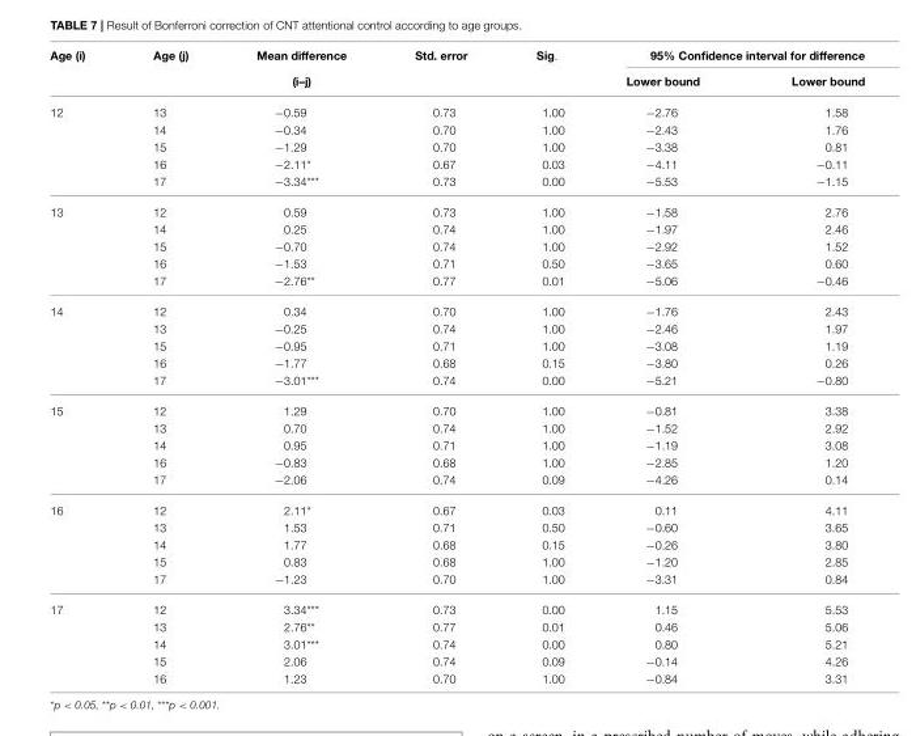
<table><thead><tr><td rowspan="2">Age (i)</td><td rowspan="2">Age (j)</td><td rowspan="2">Mean difference (i–j)</td><td rowspan="2">Std. error</td><td rowspan="2">Sig.</td><td colspan="2">95% Confidence interval for difference</td></tr><tr><td>Lower bound</td><td>Lower bound</td></tr></thead><tbody><tr><td rowspan="5">12</td><td>13</td><td>−0.59</td><td>0.73</td><td>1.00</td><td>−2.76</td><td>1.58</td></tr><tr><td>14</td><td>−0.34</td><td>0.70</td><td>1.00</td><td>−2.43</td><td>1.76</td></tr><tr><td>15</td><td>−1.29</td><td>0.70</td><td>1.00</td><td>−3.38</td><td>0.81</td></tr><tr><td>16</td><td>−2.11*</td><td>0.67</td><td>0.03</td><td>−4.11</td><td>−0.11</td></tr><tr><td>17</td><td>−3.34***</td><td>0.73</td><td>0.00</td><td>−5.53</td><td>−1.15</td></tr><tr><td rowspan="5">13</td><td>12</td><td>0.59</td><td>0.73</td><td>1.00</td><td>−1.58</td><td>2.76</td></tr><tr><td>14</td><td>0.25</td><td>0.74</td><td>1.00</td><td>−1.97</td><td>2.46</td></tr><tr><td>15</td><td>−0.70</td><td>0.74</td><td>1.00</td><td>−2.92</td><td>1.52</td></tr><tr><td>16</td><td>−1.53</td><td>0.71</td><td>0.50</td><td>−3.65</td><td>0.60</td></tr><tr><td>17</td><td>−2.76**</td><td>0.77</td><td>0.01</td><td>−5.06</td><td>−0.46</td></tr><tr><td rowspan="5">14</td><td>12</td><td>0.34</td><td>0.70</td><td>1.00</td><td>−1.76</td><td>2.43</td></tr><tr><td>13</td><td>−0.25</td><td>0.74</td><td>1.00</td><td>−2.46</td><td>1.97</td></tr><tr><td>15</td><td>−0.95</td><td>0.71</td><td>1.00</td><td>−3.08</td><td>1.19</td></tr><tr><td>16</td><td>−1.77</td><td>0.68</td><td>0.15</td><td>−3.80</td><td>0.26</td></tr><tr><td>17</td><td>−3.01***</td><td>0.74</td><td>0.00</td><td>−5.21</td><td>−0.80</td></tr><tr><td rowspan="5">15</td><td>12</td><td>1.29</td><td>0.70</td><td>1.00</td><td>−0.81</td><td>3.38</td></tr><tr><td>13</td><td>0.70</td><td>0.74</td><td>1.00</td><td>−1.52</td><td>2.92</td></tr><tr><td>14</td><td>0.95</td><td>0.71</td><td>1.00</td><td>−1.19</td><td>3.08</td></tr><tr><td>16</td><td>−0.83</td><td>0.68</td><td>1.00</td><td>−2.85</td><td>1.20</td></tr><tr><td>17</td><td>−2.06</td><td>0.74</td><td>0.09</td><td>−4.26</td><td>0.14</td></tr><tr><td rowspan="5">16</td><td>12</td><td>2.11*</td><td>0.67</td><td>0.03</td><td>0.11</td><td>4.11</td></tr><tr><td>13</td><td>1.53</td><td>0.71</td><td>0.50</td><td>−0.60</td><td>3.65</td></tr><tr><td>14</td><td>1.77</td><td>0.68</td><td>0.15</td><td>−0.26</td><td>3.80</td></tr><tr><td>15</td><td>0.83</td><td>0.68</td><td>1.00</td><td>−1.20</td><td>2.85</td></tr><tr><td>17</td><td>−1.23</td><td>0.70</td><td>1.00</td><td>−3.31</td><td>0.84</td></tr><tr><td rowspan="5">17</td><td>12</td><td>3.34***</td><td>0.73</td><td>0.00</td><td>1.15</td><td>5.53</td></tr><tr><td>13</td><td>2.76**</td><td>0.77</td><td>0.01</td><td>0.46</td><td>5.06</td></tr><tr><td>14</td><td>3.01***</td><td>0.74</td><td>0.00</td><td>0.80</td><td>5.21</td></tr><tr><td>15</td><td>2.06</td><td>0.74</td><td>0.09</td><td>−0.14</td><td>4.26</td></tr><tr><td>16</td><td>1.23</td><td>0.70</td><td>1.00</td><td>−0.84</td><td>3.31</td></tr></tbody></table>